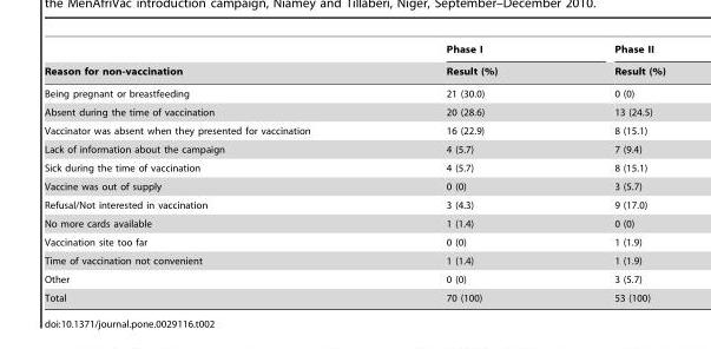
<table><thead><tr><td rowspan="2">Reason for non-vaccination</td><td rowspan="2">Phase I Result (%)</td><td rowspan="2">Phase II Result (%)</td></tr><tr></tr></thead><tbody><tr><td>Being pregnant or breastfeeding</td><td>21 (30.0)</td><td>0 (0)</td></tr><tr><td>Absent during the time of vaccination</td><td>20 (28.6)</td><td>13 (24.5)</td></tr><tr><td>Vaccinator was absent when they presented for vaccination</td><td>16 (22.9)</td><td>8 (15.1)</td></tr><tr><td>Lack of information about the campaign</td><td>4 (5.7)</td><td>7 (9.4)</td></tr><tr><td>Sick during the time of vaccination</td><td>4 (5.7)</td><td>8 (15.1)</td></tr><tr><td>Vaccine was out of supply</td><td>0 (0)</td><td>3 (5.7)</td></tr><tr><td>Refusal/Not interested in vaccination</td><td>3 (4.3)</td><td>9 (17.0)</td></tr><tr><td>No more cards available</td><td>1 (1.4)</td><td>0 (0)</td></tr><tr><td>Vaccination site too far</td><td>0 (0)</td><td>1 (1.9)</td></tr><tr><td>Time of vaccination not convenient</td><td>1 (1.4)</td><td>1 (1.9)</td></tr><tr><td>Other</td><td>0 (0)</td><td>3 (5.7)</td></tr><tr><td>Total</td><td>70 (100)</td><td>53 (100)</td></tr></tbody></table>